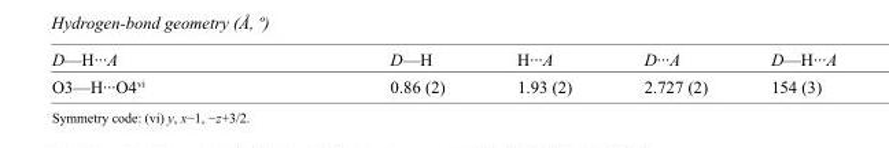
<table><tbody><tr><td>D—H···A</td><td>D—H</td><td>H···A</td><td>D···A</td><td>D—H···A</td></tr><tr><td>O3—H···O4<sup>vi</sup></td><td>0.86 (2)</td><td>1.93 (2)</td><td>2.727 (2)</td><td>154 (3)</td></tr></tbody></table>